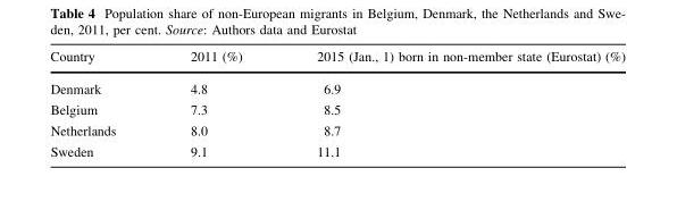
<table><thead><tr><td>Country</td><td>2011 (%)</td><td>2015 (Jan., 1) born in non-member state (Eurostat) (%)</td></tr></thead><tbody><tr><td>Denmark</td><td>4.8</td><td>6.9</td></tr><tr><td>Belgium</td><td>7.3</td><td>8.5</td></tr><tr><td>Netherlands</td><td>8.0</td><td>8.7</td></tr><tr><td>Sweden</td><td>9.1</td><td>11.1</td></tr></tbody></table>